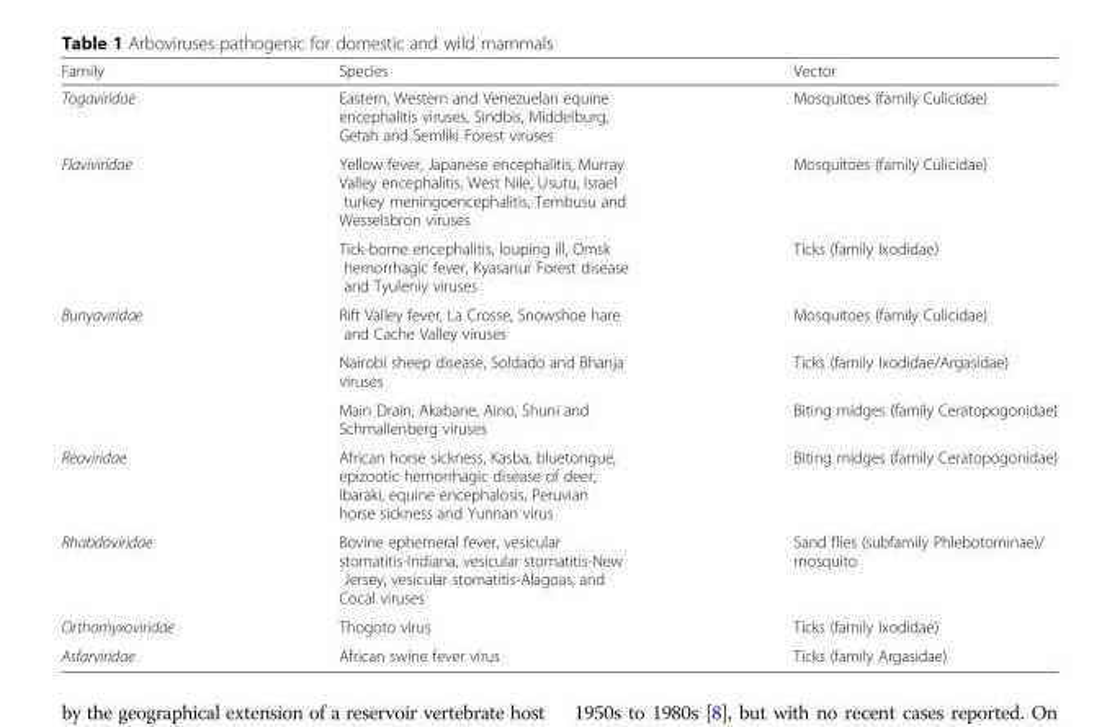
<table><thead><tr><td>Family</td><td>Species</td><td>Vector</td></tr></thead><tbody><tr><td>Togaviridae</td><td>Eastern, Western and Venezuelan equine encephalitis viruses, Sindbis, Middelburg, Getah and Semliki Forest viruses</td><td>Mosquitoes (family Culicidae)</td></tr><tr><td rowspan="2">Flaviviridae</td><td>Yellow fever, Japanese encephalitis, Murray Valley encephalitis, West Nile, Usutu, Israel turkey meningoencephalitis, Tembusu and Wesselsbron viruses</td><td>Mosquitoes (family Culicidae)</td></tr><tr><td>Tick-borne encephalitis, louping ill, Omsk hemorrhagic fever, Kyasanur Forest disease and Tyuleniy viruses</td><td>Ticks (family Ixodidae)</td></tr><tr><td rowspan="3">Bunyaviridae</td><td>Rift Valley fever, La Crosse, Snowshoe hare and Cache Valley viruses</td><td>Mosquitoes (family Culicidae)</td></tr><tr><td>Nairobi sheep disease, Soldado and Bhanja viruses</td><td>Ticks (family Ixodidae/Argasidae)</td></tr><tr><td>Main Drain, Akabane, Aino, Shuni and Schmallenberg viruses</td><td>Biting midges (family Ceratopogonidae)</td></tr><tr><td>Reoviridae</td><td>African horse sickness, Kasba, bluetongue, epizootic hemorrhagic disease of deer, Ibaraki, equine encephalosis, Peruvian horse sickness and Yunnan virus</td><td>Biting midges (family Ceratopogonidae)</td></tr><tr><td>Rhabdoviridae</td><td>Bovine ephemeral fever, vesicular stomatitis-Indiana, vesicular stomatitis-New Jersey, vesicular stomatitis-Alagoas, and Cocal viruses</td><td>Sand flies (subfamily Phlebotominae)/ mosquito</td></tr><tr><td>Orthomyxoviridae</td><td>Thogoto virus</td><td>Ticks (family Ixodidae)</td></tr><tr><td>Asfarviridae</td><td>African swine fever virus</td><td>Ticks (family Argasidae)</td></tr></tbody></table>